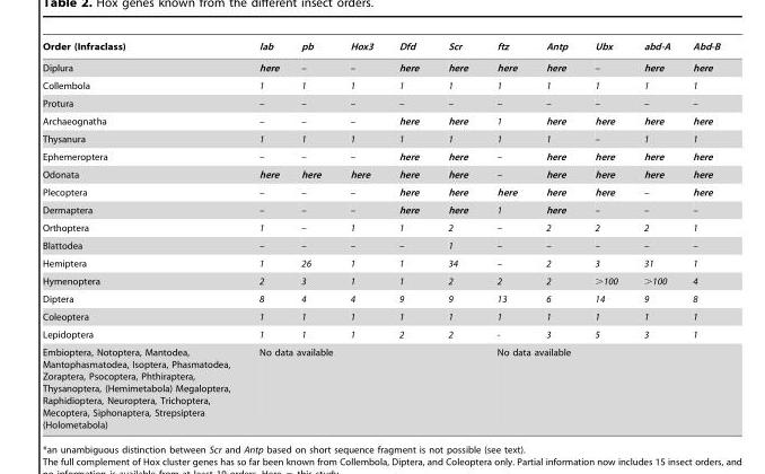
<table><thead><tr><td>Order (Infraclass)</td><td>lab</td><td>pb</td><td>Hox3</td><td>Dfd</td><td>Scr</td><td>ftz</td><td>Antp</td><td>Ubx</td><td>abd-A</td><td>Abd-B</td></tr></thead><tbody><tr><td>Diplura</td><td>here</td><td>–</td><td>–</td><td>here</td><td>here</td><td>here</td><td>here</td><td>–</td><td>here</td><td>here</td></tr><tr><td>Collembola</td><td>1</td><td>1</td><td>1</td><td>1</td><td>1</td><td>1</td><td>1</td><td>1</td><td>1</td><td>1</td></tr><tr><td>Protura</td><td>–</td><td>–</td><td>–</td><td>–</td><td>–</td><td>–</td><td>–</td><td>–</td><td>–</td><td>–</td></tr><tr><td>Archaeognatha</td><td>–</td><td>–</td><td>–</td><td>here</td><td>here</td><td>1</td><td>here</td><td>here</td><td>here</td><td>here</td></tr><tr><td>Thysanura</td><td>1</td><td>1</td><td>1</td><td>1</td><td>1</td><td>1</td><td>1</td><td>–</td><td>1</td><td>1</td></tr><tr><td>Ephemeroptera</td><td>–</td><td>–</td><td>–</td><td>here</td><td>here</td><td>–</td><td>here</td><td>here</td><td>here</td><td>here</td></tr><tr><td>Odonata</td><td>here</td><td>here</td><td>here</td><td>here</td><td>here</td><td>–</td><td>here</td><td>here</td><td>here</td><td>here</td></tr><tr><td>Plecoptera</td><td>–</td><td>–</td><td>–</td><td>here</td><td>here</td><td>here</td><td>here</td><td>here</td><td>–</td><td>here</td></tr><tr><td>Dermaptera</td><td>–</td><td>–</td><td>–</td><td>here</td><td>here</td><td>1</td><td>here</td><td>–</td><td>–</td><td>–</td></tr><tr><td>Orthoptera</td><td>1</td><td>–</td><td>1</td><td>1</td><td>2</td><td>–</td><td>2</td><td>2</td><td>2</td><td>1</td></tr><tr><td>Blattodea</td><td>–</td><td>–</td><td>–</td><td>–</td><td>1</td><td>–</td><td>–</td><td>–</td><td>–</td><td>–</td></tr><tr><td>Hemiptera</td><td>1</td><td>26</td><td>1</td><td>1</td><td>34</td><td>–</td><td>2</td><td>3</td><td>31</td><td>1</td></tr><tr><td>Hymenoptera</td><td>2</td><td>3</td><td>1</td><td>1</td><td>2</td><td>2</td><td>2</td><td>&gt;100</td><td>&gt;100</td><td>4</td></tr><tr><td>Diptera</td><td>8</td><td>4</td><td>4</td><td>9</td><td>9</td><td>13</td><td>6</td><td>14</td><td>9</td><td>8</td></tr><tr><td>Coleoptera</td><td>1</td><td>1</td><td>1</td><td>1</td><td>1</td><td>1</td><td>1</td><td>1</td><td>1</td><td>1</td></tr><tr><td>Lepidoptera</td><td>1</td><td>1</td><td>1</td><td>2</td><td>2</td><td>-</td><td>3</td><td>5</td><td>3</td><td>1</td></tr><tr><td>Embioptera, Notoptera, Mantodea, Mantophasmatodea, Isoptera, Phasmatodea, Zoraptera, Psocoptera, Phthiraptera, Thysanoptera, (Hemimetabola) Megaloptera, Raphidioptera, Neuroptera, Trichoptera, Mecoptera, Siphonaptera, Strepsiptera (Holometabola)</td><td colspan="5">No data available</td><td colspan="5">No data available</td></tr></tbody></table>